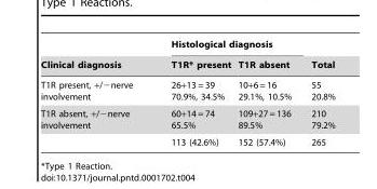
<table><thead><tr><td rowspan="2">Clinical diagnosis</td><td colspan="2">Histological diagnosis</td><td rowspan="2">Total</td></tr><tr><td>T1R* present</td><td>T1R absent</td></tr></thead><tbody><tr><td>T1R present, +/−nerve involvement</td><td>26+13 = 39 70.9%, 34.5%</td><td>10+6 = 16 29.1%, 10.5%</td><td>55 20.8%</td></tr><tr><td rowspan="2">T1R absent, +/−nerve involvement</td><td>60+14 = 74 65.5%</td><td>109+27 = 136 89.5%</td><td>210 79.2%</td></tr><tr><td>113 (42.6%)</td><td>152 (57.4%)</td><td>265</td></tr></tbody></table>